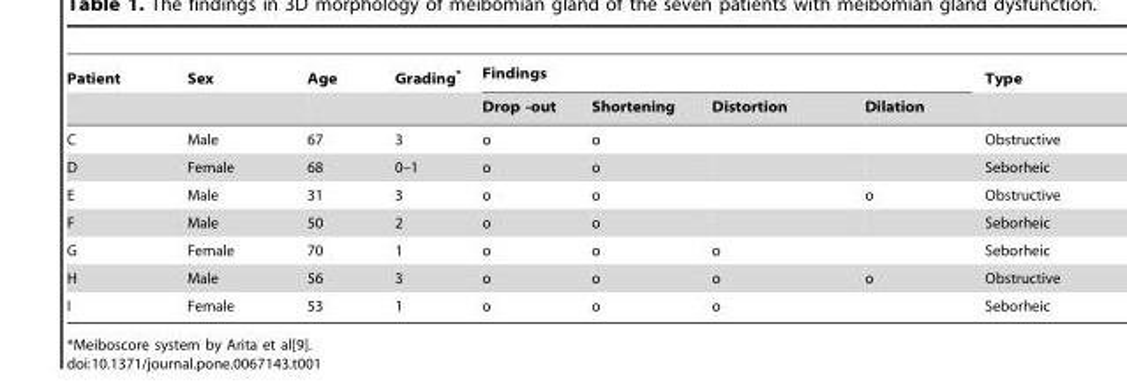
<table><thead><tr><td rowspan="2">Patient</td><td rowspan="2">Sex</td><td rowspan="2">Age</td><td rowspan="2">Grading*</td><td colspan="4">Findings</td><td rowspan="2">Type</td></tr><tr><td>Drop -out</td><td>Shortening</td><td>Distortion</td><td>Dilation</td></tr></thead><tbody><tr><td>C</td><td>Male</td><td>67</td><td>3</td><td>o</td><td>o</td><td></td><td></td><td>Obstructive</td></tr><tr><td>D</td><td>Female</td><td>68</td><td>0–1</td><td>o</td><td>o</td><td></td><td></td><td>Seborheic</td></tr><tr><td>E</td><td>Male</td><td>31</td><td>3</td><td>o</td><td>o</td><td></td><td>o</td><td>Obstructive</td></tr><tr><td>F</td><td>Male</td><td>50</td><td>2</td><td>o</td><td>o</td><td></td><td></td><td>Seborheic</td></tr><tr><td>G</td><td>Female</td><td>70</td><td>1</td><td>o</td><td>o</td><td>o</td><td></td><td>Seborheic</td></tr><tr><td>H</td><td>Male</td><td>56</td><td>3</td><td>o</td><td>o</td><td>o</td><td>o</td><td>Obstructive</td></tr><tr><td>I</td><td>Female</td><td>53</td><td>1</td><td>o</td><td>o</td><td>o</td><td></td><td>Seborheic</td></tr></tbody></table>